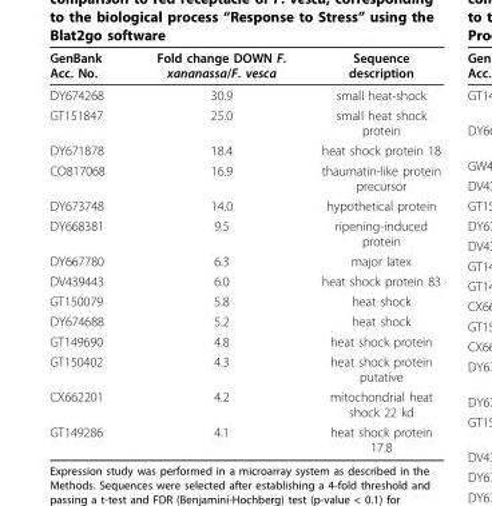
<table><thead><tr><td>GenBank Acc. No.</td><td>Fold change DOWN F. xananassa/F. vesca</td><td>Sequence description</td></tr></thead><tbody><tr><td>DY674268</td><td>30.9</td><td>small heat-shock</td></tr><tr><td>GT151847</td><td>25.0</td><td>small heat shock protein</td></tr><tr><td>DY671878</td><td>18.4</td><td>heat shock protein 18</td></tr><tr><td>CO817068</td><td>16.9</td><td>thaumatin-like protein precursor</td></tr><tr><td>DY673748</td><td>14.0</td><td>hypothetical protein</td></tr><tr><td>DY668381</td><td>9.5</td><td>ripening-induced protein</td></tr><tr><td>DY667780</td><td>6.3</td><td>major latex</td></tr><tr><td>DV439443</td><td>6.0</td><td>heat shock protein 83</td></tr><tr><td>GT150079</td><td>5.8</td><td>heat shock</td></tr><tr><td>DY674688</td><td>5.2</td><td>heat shock</td></tr><tr><td>GT149690</td><td>4.8</td><td>heat shock protein</td></tr><tr><td>GT150402</td><td>4.3</td><td>heat shock protein putative</td></tr><tr><td>CX662201</td><td>4.2</td><td>mitochondrial heat shock 22 kd</td></tr><tr><td>GT149286</td><td>4.1</td><td>heat shock protein 17.8</td></tr></tbody></table>